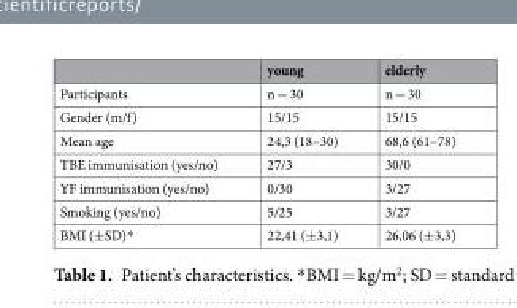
<table><thead><tr><td></td><td>young</td><td>elderly</td></tr></thead><tbody><tr><td>Participants</td><td>n = 30</td><td>n = 30</td></tr><tr><td>Gender (m/f)</td><td>15/15</td><td>15/15</td></tr><tr><td>Mean age</td><td>24,3 (18–30)</td><td>68,6 (61–78)</td></tr><tr><td>TBE immunisation (yes/no)</td><td>27/3</td><td>30/0</td></tr><tr><td>YF immunisation (yes/no)</td><td>0/30</td><td>3/27</td></tr><tr><td>Smoking (yes/no)</td><td>5/25</td><td>3/27</td></tr><tr><td>BMI (±SD)*</td><td>22,41 (±3,1)</td><td>26,06 (±3,3)</td></tr></tbody></table>